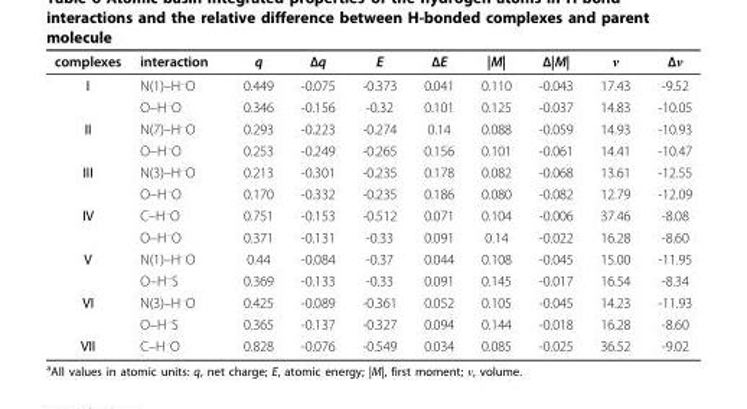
<table><thead><tr><td>complexes</td><td>interaction</td><td>q</td><td>Δq</td><td>E</td><td>ΔE</td><td>|M|</td><td>Δ|M|</td><td>ν</td><td>Δν</td></tr></thead><tbody><tr><td rowspan="2">I</td><td>N(1)–H...O</td><td>0.449</td><td>-0.075</td><td>-0.373</td><td>0.041</td><td>0.110</td><td>-0.043</td><td>17.43</td><td>-9.52</td></tr><tr><td>O–H...O</td><td>0.346</td><td>-0.156</td><td>-0.32</td><td>0.101</td><td>0.125</td><td>-0.037</td><td>14.83</td><td>-10.05</td></tr><tr><td rowspan="2">II</td><td>N(7)–H...O</td><td>0.293</td><td>-0.223</td><td>-0.274</td><td>0.14</td><td>0.088</td><td>-0.059</td><td>14.93</td><td>-10.93</td></tr><tr><td>O–H...O</td><td>0.253</td><td>-0.249</td><td>-0.265</td><td>0.156</td><td>0.101</td><td>-0.061</td><td>14.41</td><td>-10.47</td></tr><tr><td rowspan="2">III</td><td>N(3)–H...O</td><td>0.213</td><td>-0.301</td><td>-0.235</td><td>0.178</td><td>0.082</td><td>-0.068</td><td>13.61</td><td>-12.55</td></tr><tr><td>O–H...O</td><td>0.170</td><td>-0.332</td><td>-0.235</td><td>0.186</td><td>0.080</td><td>-0.082</td><td>12.79</td><td>-12.09</td></tr><tr><td rowspan="2">IV</td><td>C–H...O</td><td>0.751</td><td>-0.153</td><td>-0.512</td><td>0.071</td><td>0.104</td><td>-0.006</td><td>37.46</td><td>-8.08</td></tr><tr><td>O–H...O</td><td>0.371</td><td>-0.131</td><td>-0.33</td><td>0.091</td><td>0.14</td><td>-0.022</td><td>16.28</td><td>-8.60</td></tr><tr><td rowspan="2">V</td><td>N(1)–H...O</td><td>0.44</td><td>-0.084</td><td>-0.37</td><td>0.044</td><td>0.108</td><td>-0.045</td><td>15.00</td><td>-11.95</td></tr><tr><td>O–H...S</td><td>0.369</td><td>-0.133</td><td>-0.33</td><td>0.091</td><td>0.145</td><td>-0.017</td><td>16.54</td><td>-8.34</td></tr><tr><td rowspan="2">VI</td><td>N(3)–H...O</td><td>0.425</td><td>-0.089</td><td>-0.361</td><td>0.052</td><td>0.105</td><td>-0.045</td><td>14.23</td><td>-11.93</td></tr><tr><td>O–H...S</td><td>0.365</td><td>-0.137</td><td>-0.327</td><td>0.094</td><td>0.144</td><td>-0.018</td><td>16.28</td><td>-8.60</td></tr><tr><td>VII</td><td>C–H...O</td><td>0.828</td><td>-0.076</td><td>-0.549</td><td>0.034</td><td>0.085</td><td>-0.025</td><td>36.52</td><td>-9.02</td></tr></tbody></table>